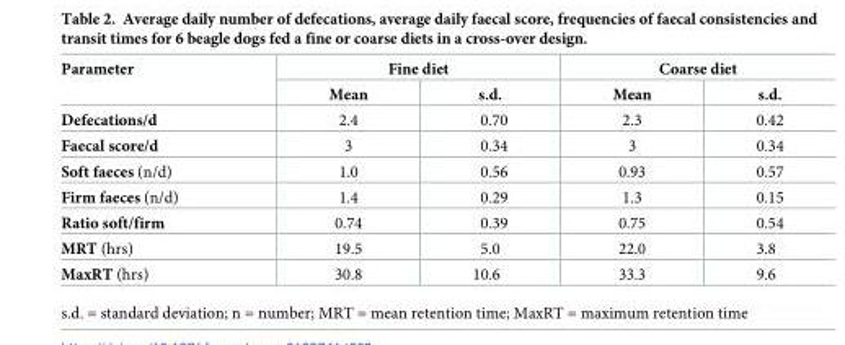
<table><thead><tr><td rowspan="2">Parameter</td><td colspan="2">Fine diet</td><td colspan="2">Coarse diet</td></tr><tr><td>Mean</td><td>s.d.</td><td>Mean</td><td>s.d.</td></tr></thead><tbody><tr><td>Defecations/d</td><td>2.4</td><td>0.70</td><td>2.3</td><td>0.42</td></tr><tr><td>Faecal score/d</td><td>3</td><td>0.34</td><td>3</td><td>0.34</td></tr><tr><td>Soft faeces (n/d)</td><td>1.0</td><td>0.56</td><td>0.93</td><td>0.57</td></tr><tr><td>Firm faeces (n/d)</td><td>1.4</td><td>0.29</td><td>1.3</td><td>0.15</td></tr><tr><td>Ratio soft/firm</td><td>0.74</td><td>0.39</td><td>0.75</td><td>0.54</td></tr><tr><td>MRT (hrs)</td><td>19.5</td><td>5.0</td><td>22.0</td><td>3.8</td></tr><tr><td>MaxRT (hrs)</td><td>30.8</td><td>10.6</td><td>33.3</td><td>9.6</td></tr></tbody></table>